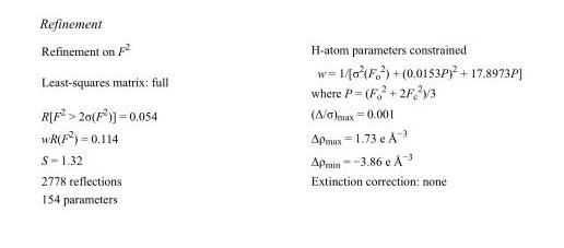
<table><tbody><tr><td>Refinement on F<sup>2</sup></td><td>H-atom parameters constrained</td></tr><tr><td>Least-squares matrix: full</td><td>w = 1/[σ<sup>2</sup>(F<sub>o</sub> <sup>2</sup>) + (0.0153P)<sup>2</sup> + 17.8973P] where P = (F<sub>o</sub> <sup>2</sup> + 2F<sub>c</sub> <sup>2</sup>)/3</td></tr><tr><td>R[F<sup>2</sup> &gt; 2σ(F<sup>2</sup>)] = 0.054</td><td>(Δ/σ)<sub>max</sub> = 0.001</td></tr><tr><td>wR(F<sup>2</sup>) = 0.114</td><td>Δρ<sub>max</sub> = 1.73 e Å<sup>−3</sup></td></tr><tr><td>S = 1.32</td><td>Δρ<sub>min</sub> = −3.86 e Å<sup>−3</sup></td></tr><tr><td>2778 reflections</td><td>Extinction correction: none</td></tr><tr><td>154 parameters</td><td></td></tr></tbody></table>